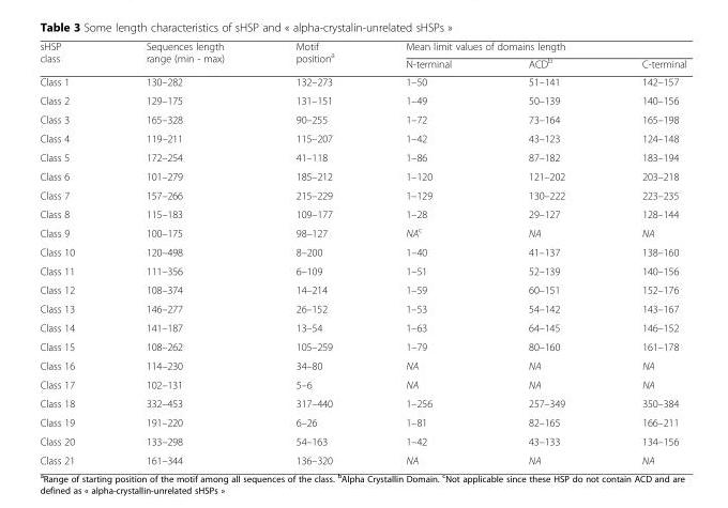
<table><thead><tr><td rowspan="2">sHSP class</td><td rowspan="2">Sequences length range (min - max)</td><td rowspan="2">Motif position<sup>a</sup></td><td colspan="3">Mean limit values of domains length</td></tr><tr><td>N-terminal</td><td>ACD<sup>b</sup></td><td>C-terminal</td></tr></thead><tbody><tr><td>Class 1</td><td>130–282</td><td>132–273</td><td>1–50</td><td>51–141</td><td>142–157</td></tr><tr><td>Class 2</td><td>129–175</td><td>131–151</td><td>1–49</td><td>50–139</td><td>140–156</td></tr><tr><td>Class 3</td><td>165–328</td><td>90–255</td><td>1–72</td><td>73–164</td><td>165–198</td></tr><tr><td>Class 4</td><td>119–211</td><td>115–207</td><td>1–42</td><td>43–123</td><td>124–148</td></tr><tr><td>Class 5</td><td>172–254</td><td>41–118</td><td>1–86</td><td>87–182</td><td>183–194</td></tr><tr><td>Class 6</td><td>101–279</td><td>185–212</td><td>1–120</td><td>121–202</td><td>203–218</td></tr><tr><td>Class 7</td><td>157–266</td><td>215–229</td><td>1–129</td><td>130–222</td><td>223–235</td></tr><tr><td>Class 8</td><td>115–183</td><td>109–177</td><td>1–28</td><td>29–127</td><td>128–144</td></tr><tr><td>Class 9</td><td>100–175</td><td>98–127</td><td>NA<sup>c</sup></td><td>NA</td><td>NA</td></tr><tr><td>Class 10</td><td>120–498</td><td>8–200</td><td>1–40</td><td>41–137</td><td>138–160</td></tr><tr><td>Class 11</td><td>111–356</td><td>6–109</td><td>1–51</td><td>52–139</td><td>140–156</td></tr><tr><td>Class 12</td><td>108–374</td><td>14–214</td><td>1–59</td><td>60–151</td><td>152–176</td></tr><tr><td>Class 13</td><td>146–277</td><td>26–152</td><td>1–53</td><td>54–142</td><td>143–167</td></tr><tr><td>Class 14</td><td>141–187</td><td>13–54</td><td>1–63</td><td>64–145</td><td>146–152</td></tr><tr><td>Class 15</td><td>108–262</td><td>105–259</td><td>1–79</td><td>80–160</td><td>161–178</td></tr><tr><td>Class 16</td><td>114–230</td><td>34–80</td><td>NA</td><td>NA</td><td>NA</td></tr><tr><td>Class 17</td><td>102–131</td><td>5–6</td><td>NA</td><td>NA</td><td>NA</td></tr><tr><td>Class 18</td><td>332–453</td><td>317–440</td><td>1–256</td><td>257–349</td><td>350–384</td></tr><tr><td>Class 19</td><td>191–220</td><td>6–26</td><td>1–81</td><td>82–165</td><td>166–211</td></tr><tr><td>Class 20</td><td>133–298</td><td>54–163</td><td>1–42</td><td>43–133</td><td>134–156</td></tr><tr><td>Class 21</td><td>161–344</td><td>136–320</td><td>NA</td><td>NA</td><td>NA</td></tr></tbody></table>